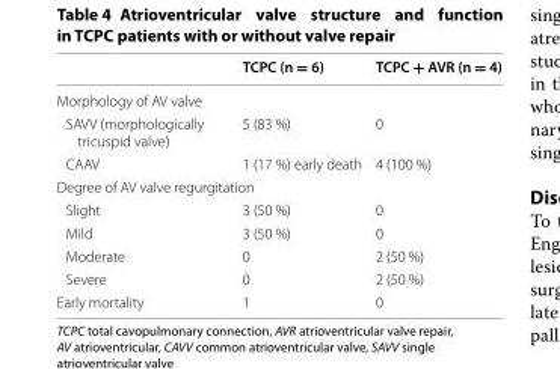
<table><thead><tr><td></td><td>TCPC (n = 6)</td><td>TCPC + AVR (n = 4)</td></tr></thead><tbody><tr><td colspan="3">Morphology of AV valve</td></tr><tr><td>SAVV (morphologically tricuspid valve)</td><td>5 (83 %)</td><td>0</td></tr><tr><td>CAAV</td><td>1 (17 %) early death</td><td>4 (100 %)</td></tr><tr><td colspan="3">Degree of AV valve regurgitation</td></tr><tr><td>Slight</td><td>3 (50 %)</td><td>0</td></tr><tr><td>Mild</td><td>3 (50 %)</td><td>0</td></tr><tr><td>Moderate</td><td>0</td><td>2 (50 %)</td></tr><tr><td>Severe</td><td>0</td><td>2 (50 %)</td></tr><tr><td>Early mortality</td><td>1</td><td>0</td></tr></tbody></table>